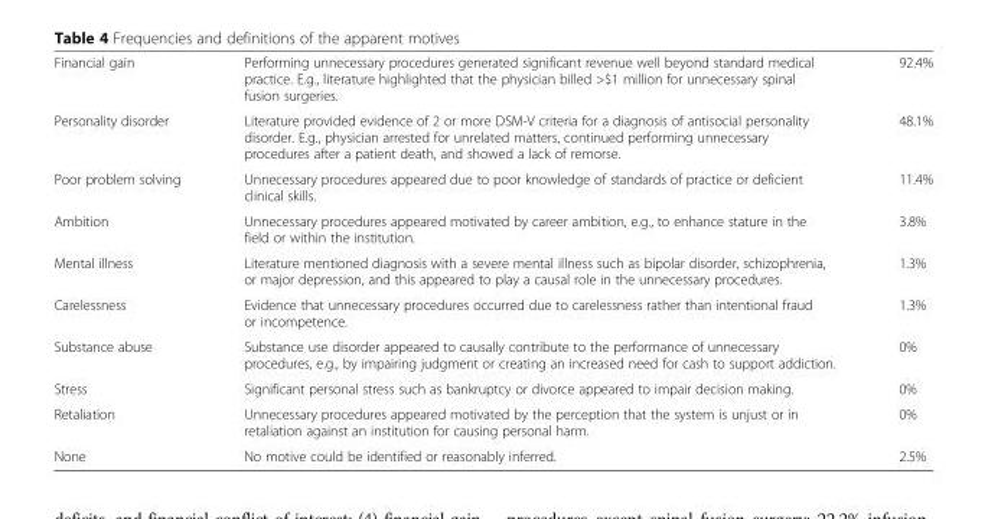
<table><tbody><tr><td>Financial gain</td><td>Performing unnecessary procedures generated significant revenue well beyond standard medical practice. E.g., literature highlighted that the physician billed &gt;$1 million for unnecessary spinal fusion surgeries.</td><td>92.4%</td></tr><tr><td>Personality disorder</td><td>Literature provided evidence of 2 or more DSM-V criteria for a diagnosis of antisocial personality disorder. E.g., physician arrested for unrelated matters, continued performing unnecessary procedures after a patient death, and showed a lack of remorse.</td><td>48.1%</td></tr><tr><td>Poor problem solving</td><td>Unnecessary procedures appeared due to poor knowledge of standards of practice or deficient clinical skills.</td><td>11.4%</td></tr><tr><td>Ambition</td><td>Unnecessary procedures appeared motivated by career ambition, e.g., to enhance stature in the field or within the institution.</td><td>3.8%</td></tr><tr><td>Mental illness</td><td>Literature mentioned diagnosis with a severe mental illness such as bipolar disorder, schizophrenia, or major depression, and this appeared to play a causal role in the unnecessary procedures.</td><td>1.3%</td></tr><tr><td>Carelessness</td><td>Evidence that unnecessary procedures occurred due to carelessness rather than intentional fraud or incompetence.</td><td>1.3%</td></tr><tr><td>Substance abuse</td><td>Substance use disorder appeared to causally contribute to the performance of unnecessary procedures, e.g., by impairing judgment or creating an increased need for cash to support addiction.</td><td>0%</td></tr><tr><td>Stress</td><td>Significant personal stress such as bankruptcy or divorce appeared to impair decision making.</td><td>0%</td></tr><tr><td>Retaliation</td><td>Unnecessary procedures appeared motivated by the perception that the system is unjust or in retaliation against an institution for causing personal harm.</td><td>0%</td></tr><tr><td>None</td><td>No motive could be identified or reasonably inferred.</td><td>2.5%</td></tr></tbody></table>